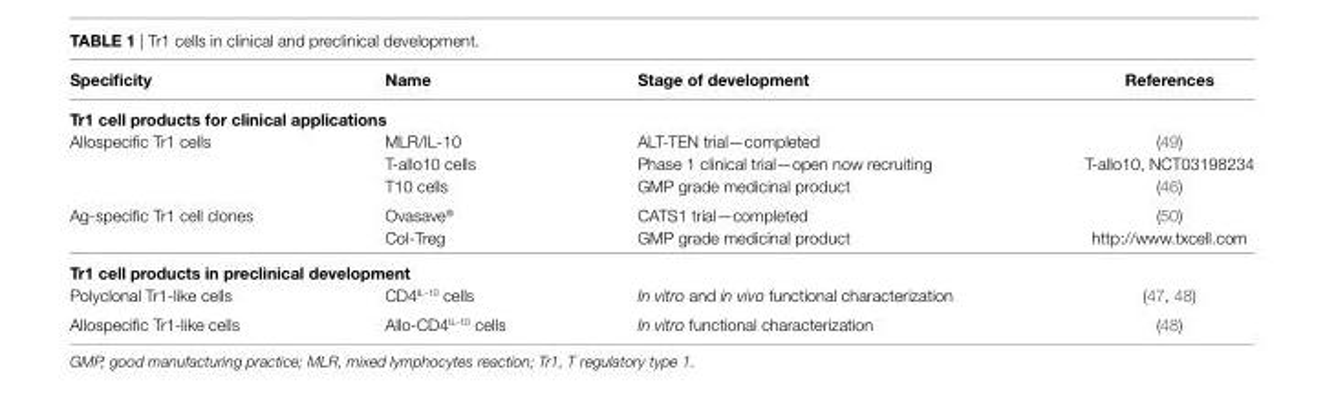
<table><thead><tr><td>Specificity</td><td>Name</td><td>Stage of development</td><td>References</td></tr></thead><tbody><tr><td colspan="4">Tr1 cell products for clinical applications</td></tr><tr><td rowspan="3">Allospecific Tr1 cells</td><td>MLR/IL-10</td><td>ALT-TEN trial—completed</td><td>(49)</td></tr><tr><td>T-allo10 cells</td><td>Phase 1 clinical trial—open now recruiting</td><td>T-allo10, NCT03198234</td></tr><tr><td>T10 cells</td><td>GMP grade medicinal product</td><td>(46)</td></tr><tr><td rowspan="2">Ag-specific Tr1 cell clones</td><td>Ovasave<sup>®</sup></td><td>CATS1 trial—completed</td><td>(50)</td></tr><tr><td>Col-Treg</td><td>GMP grade medicinal product</td><td>http://www.txcell.com</td></tr><tr><td colspan="4">Tr1 cell products in preclinical development</td></tr><tr><td>Polyclonal Tr1-like cells</td><td>CD4<sup>IL-10</sup> cells</td><td>In vitro and in vivo functional characterization</td><td>(47, 48)</td></tr><tr><td>Allospecific Tr1-like cells</td><td>Allo-CD4<sup>IL-10</sup> cells</td><td>In vitro functional characterization</td><td>(48)</td></tr></tbody></table>